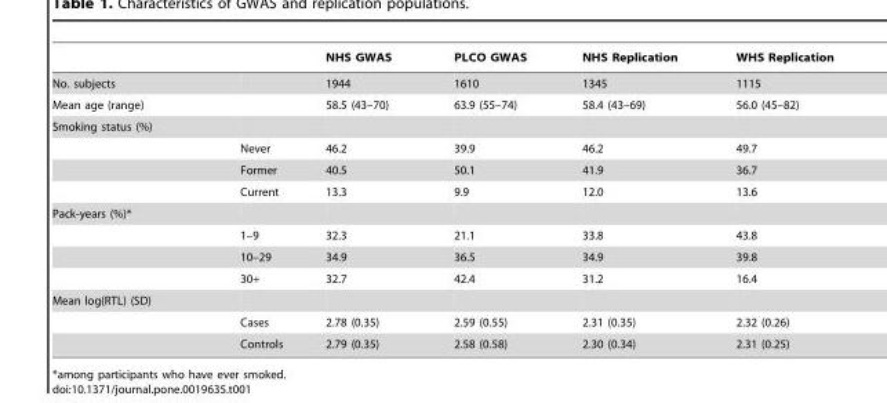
<table><thead><tr><td></td><td></td><td>NHS GWAS</td><td>PLCO GWAS</td><td>NHS Replication</td><td>WHS Replication</td></tr></thead><tbody><tr><td>No. subjects</td><td></td><td>1944</td><td>1610</td><td>1345</td><td>1115</td></tr><tr><td>Mean age (range)</td><td></td><td>58.5 (43–70)</td><td>63.9 (55–74)</td><td>58.4 (43–69)</td><td>56.0 (45–82)</td></tr><tr><td colspan="6">Smoking status (%)</td></tr><tr><td></td><td>Never</td><td>46.2</td><td>39.9</td><td>46.2</td><td>49.7</td></tr><tr><td></td><td>Former</td><td>40.5</td><td>50.1</td><td>41.9</td><td>36.7</td></tr><tr><td></td><td>Current</td><td>13.3</td><td>9.9</td><td>12.0</td><td>13.6</td></tr><tr><td colspan="6">Pack-years (%)*</td></tr><tr><td></td><td>1–9</td><td>32.3</td><td>21.1</td><td>33.8</td><td>43.8</td></tr><tr><td></td><td>10–29</td><td>34.9</td><td>36.5</td><td>34.9</td><td>39.8</td></tr><tr><td></td><td>30+</td><td>32.7</td><td>42.4</td><td>31.2</td><td>16.4</td></tr><tr><td colspan="6">Mean log(RTL) (SD)</td></tr><tr><td></td><td>Cases</td><td>2.78 (0.35)</td><td>2.59 (0.55)</td><td>2.31 (0.35)</td><td>2.32 (0.26)</td></tr><tr><td></td><td>Controls</td><td>2.79 (0.35)</td><td>2.58 (0.58)</td><td>2.30 (0.34)</td><td>2.31 (0.25)</td></tr></tbody></table>